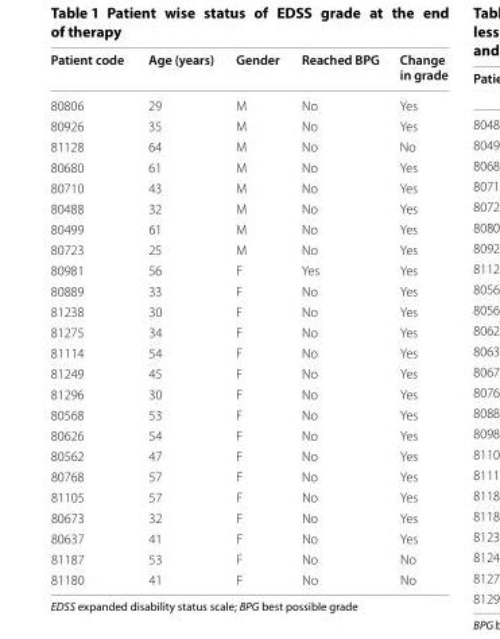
<table><thead><tr><td>Patient code</td><td>Age (years)</td><td>Gender</td><td>Reached BPG</td><td>Change in grade</td></tr></thead><tbody><tr><td>80806</td><td>29</td><td>M</td><td>No</td><td>Yes</td></tr><tr><td>80926</td><td>35</td><td>M</td><td>No</td><td>Yes</td></tr><tr><td>81128</td><td>64</td><td>M</td><td>No</td><td>No</td></tr><tr><td>80680</td><td>61</td><td>M</td><td>No</td><td>Yes</td></tr><tr><td>80710</td><td>43</td><td>M</td><td>No</td><td>Yes</td></tr><tr><td>80488</td><td>32</td><td>M</td><td>No</td><td>Yes</td></tr><tr><td>80499</td><td>61</td><td>M</td><td>No</td><td>Yes</td></tr><tr><td>80723</td><td>25</td><td>M</td><td>No</td><td>Yes</td></tr><tr><td>80981</td><td>56</td><td>F</td><td>Yes</td><td>Yes</td></tr><tr><td>80889</td><td>33</td><td>F</td><td>No</td><td>Yes</td></tr><tr><td>81238</td><td>30</td><td>F</td><td>No</td><td>Yes</td></tr><tr><td>81275</td><td>34</td><td>F</td><td>No</td><td>Yes</td></tr><tr><td>81114</td><td>54</td><td>F</td><td>No</td><td>Yes</td></tr><tr><td>81249</td><td>45</td><td>F</td><td>No</td><td>Yes</td></tr><tr><td>81296</td><td>30</td><td>F</td><td>No</td><td>Yes</td></tr><tr><td>80568</td><td>53</td><td>F</td><td>No</td><td>Yes</td></tr><tr><td>80626</td><td>54</td><td>F</td><td>No</td><td>Yes</td></tr><tr><td>80562</td><td>47</td><td>F</td><td>No</td><td>Yes</td></tr><tr><td>80768</td><td>57</td><td>F</td><td>No</td><td>Yes</td></tr><tr><td>81105</td><td>57</td><td>F</td><td>No</td><td>Yes</td></tr><tr><td>80673</td><td>32</td><td>F</td><td>No</td><td>Yes</td></tr><tr><td>80637</td><td>41</td><td>F</td><td>No</td><td>Yes</td></tr><tr><td>81187</td><td>53</td><td>F</td><td>No</td><td>No</td></tr><tr><td>81180</td><td>41</td><td>F</td><td>No</td><td>No</td></tr></tbody></table>